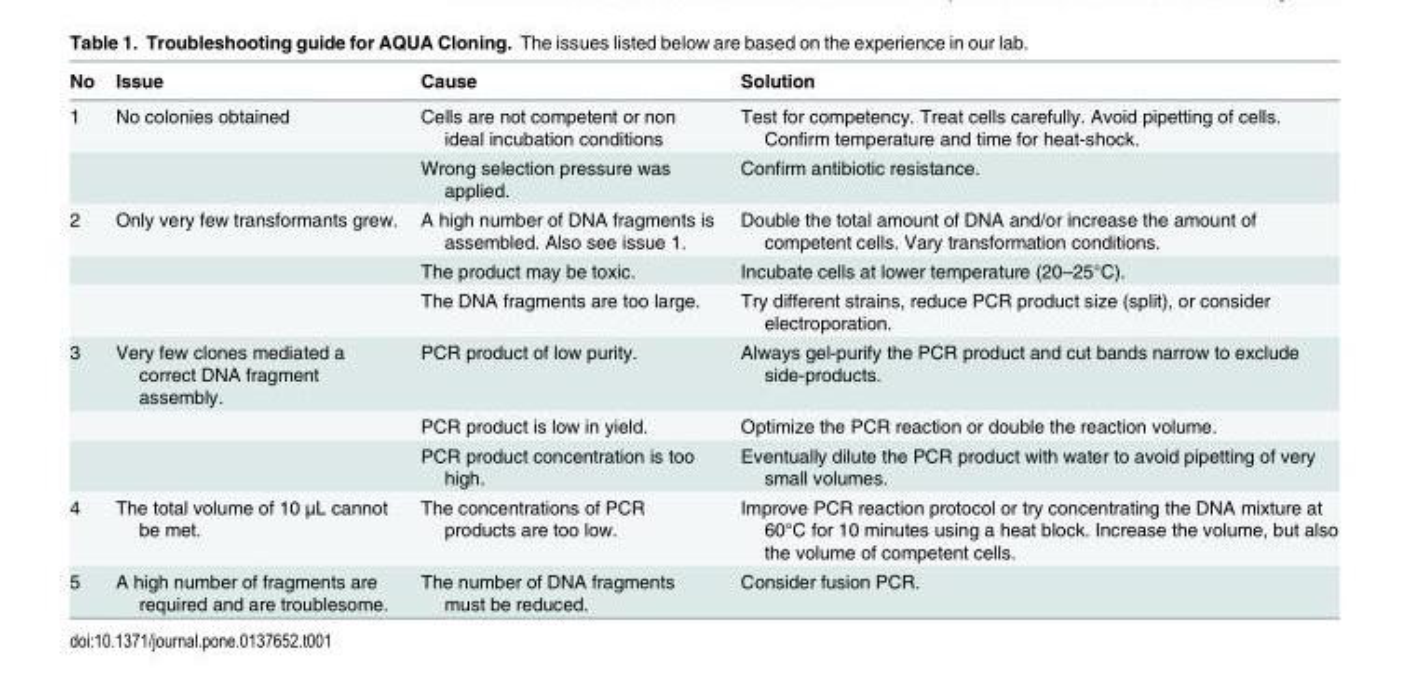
<table><thead><tr><td>No</td><td>Issue</td><td>Cause</td><td>Solution</td></tr></thead><tbody><tr><td rowspan="2">1</td><td>No colonies obtained</td><td>Cells are not competent or non ideal incubation conditions</td><td>Test for competency. Treat cells carefully. Avoid pipetting of cells. Confirm temperature and time for heat-shock.</td></tr><tr><td></td><td>Wrong selection pressure was applied.</td><td>Confirm antibiotic resistance.</td></tr><tr><td rowspan="3">2</td><td>Only very few transformants grew.</td><td>A high number of DNA fragments is assembled. Also see issue 1.</td><td>Double the total amount of DNA and/or increase the amount of competent cells. Vary transformation conditions.</td></tr><tr><td></td><td>The product may be toxic.</td><td>Incubate cells at lower temperature (20–25°C).</td></tr><tr><td></td><td>The DNA fragments are too large.</td><td>Try different strains, reduce PCR product size (split), or consider electroporation.</td></tr><tr><td rowspan="3">3</td><td>Very few clones mediated a correct DNA fragment assembly.</td><td>PCR product of low purity.</td><td>Always gel-purify the PCR product and cut bands narrow to exclude side-products.</td></tr><tr><td></td><td>PCR product is low in yield.</td><td>Optimize the PCR reaction or double the reaction volume.</td></tr><tr><td></td><td>PCR product concentration is too high.</td><td>Eventually dilute the PCR product with water to avoid pipetting of very small volumes.</td></tr><tr><td>4</td><td>The total volume of 10 μL cannot be met.</td><td>The concentrations of PCR products are too low.</td><td>Improve PCR reaction protocol or try concentrating the DNA mixture at 60°C for 10 minutes using a heat block. Increase the volume, but also the volume of competent cells.</td></tr><tr><td>5</td><td>A high number of fragments are required and are troublesome.</td><td>The number of DNA fragments must be reduced.</td><td>Consider fusion PCR.</td></tr></tbody></table>